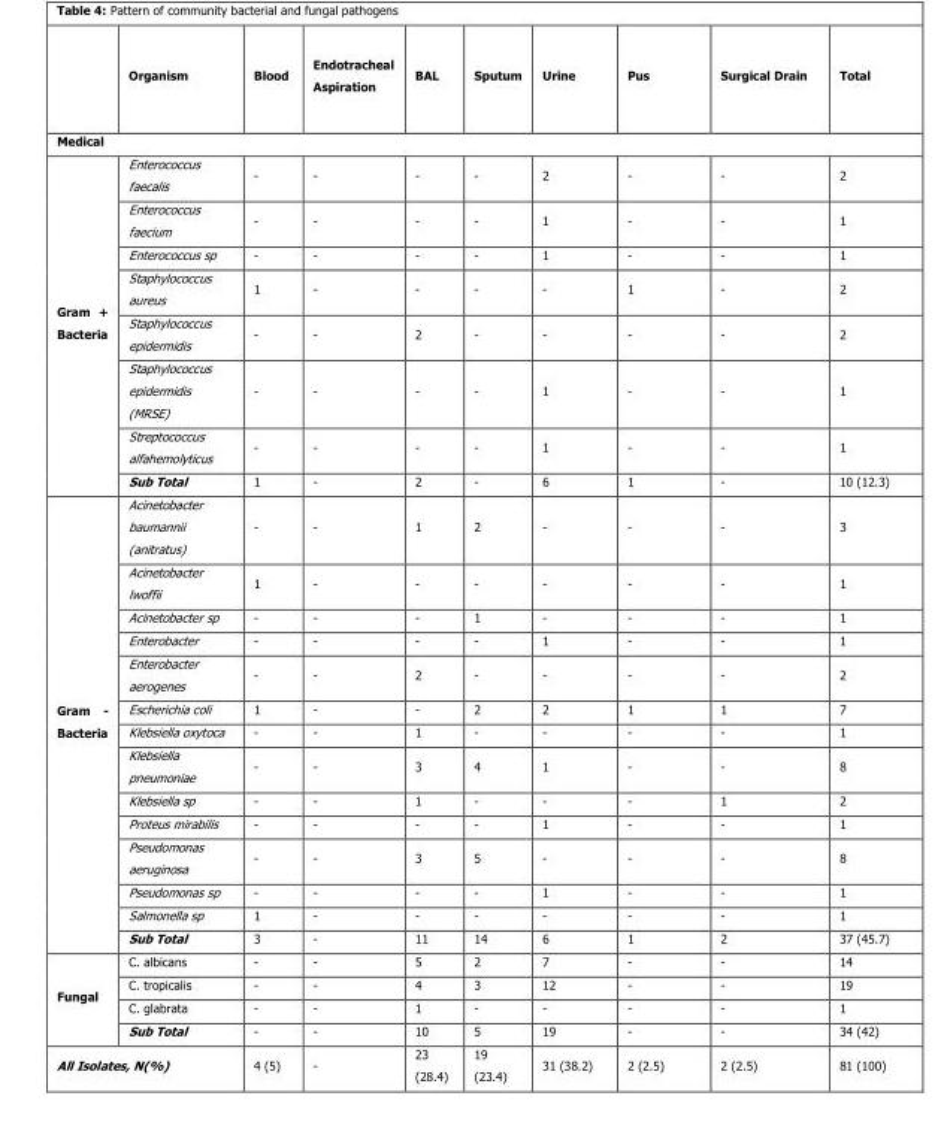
<table><thead><tr><td></td><td>Organism</td><td>Blood</td><td>Endotracheal Aspiration</td><td>BAL</td><td>Sputum</td><td>Urine</td><td>Pus</td><td>Surgical Drain</td><td>Total</td></tr></thead><tbody><tr><td colspan="10">Medical</td></tr><tr><td rowspan="8">Gram + Bacteria</td><td>Enterococcus faecalis</td><td>-</td><td>-</td><td>-</td><td>-</td><td>2</td><td>-</td><td>-</td><td>2</td></tr><tr><td>Enterococcus faecium</td><td>-</td><td>-</td><td>-</td><td>-</td><td>1</td><td>-</td><td>-</td><td>1</td></tr><tr><td>Enterococcus sp</td><td>-</td><td>-</td><td>-</td><td>-</td><td>1</td><td>-</td><td>-</td><td>1</td></tr><tr><td>Staphylococcus aureus</td><td>1</td><td>-</td><td>-</td><td>-</td><td>-</td><td>1</td><td>-</td><td>2</td></tr><tr><td>Staphylococcus epidermidis</td><td>-</td><td>-</td><td>2</td><td>-</td><td>-</td><td>-</td><td>-</td><td>2</td></tr><tr><td>Staphylococcus epidermidis (MRSE)</td><td>-</td><td>-</td><td>-</td><td>-</td><td>1</td><td>-</td><td>-</td><td>1</td></tr><tr><td>Streptococcus alfahemolyticus</td><td>-</td><td>-</td><td>-</td><td>-</td><td>1</td><td>-</td><td>-</td><td>1</td></tr><tr><td>Sub Total</td><td>1</td><td>-</td><td>2</td><td>-</td><td>6</td><td>1</td><td>-</td><td>10 (12.3)</td></tr><tr><td rowspan="14">Gram - Bacteria</td><td>Acinetobacter baumannii (anitratus)</td><td>-</td><td>-</td><td>1</td><td>2</td><td>-</td><td>-</td><td>-</td><td>3</td></tr><tr><td>Acinetobacter lwoffii</td><td>1</td><td>-</td><td>-</td><td>-</td><td>-</td><td>-</td><td>-</td><td>1</td></tr><tr><td>Acinetobacter sp</td><td>-</td><td>-</td><td>-</td><td>1</td><td>-</td><td>-</td><td>-</td><td>1</td></tr><tr><td>Enterobacter</td><td>-</td><td>-</td><td>-</td><td>-</td><td>1</td><td>-</td><td>-</td><td>1</td></tr><tr><td>Enterobacter aerogenes</td><td>-</td><td>-</td><td>2</td><td>-</td><td>-</td><td>-</td><td>-</td><td>2</td></tr><tr><td>Escherichia coli</td><td>1</td><td>-</td><td>-</td><td>2</td><td>2</td><td>1</td><td>1</td><td>7</td></tr><tr><td>Klebsiella oxytoca</td><td>-</td><td>-</td><td>1</td><td>-</td><td>-</td><td>-</td><td>-</td><td>1</td></tr><tr><td>Klebsiella pneumoniae</td><td>-</td><td>-</td><td>3</td><td>4</td><td>1</td><td>-</td><td>-</td><td>8</td></tr><tr><td>Klebsiella sp</td><td>-</td><td>-</td><td>1</td><td>-</td><td>-</td><td>-</td><td>1</td><td>2</td></tr><tr><td>Proteus mirabilis</td><td>-</td><td>-</td><td>-</td><td>-</td><td>1</td><td>-</td><td>-</td><td>1</td></tr><tr><td>Pseudomonas aeruginosa</td><td>-</td><td>-</td><td>3</td><td>5</td><td>-</td><td>-</td><td>-</td><td>8</td></tr><tr><td>Pseudomonas sp</td><td>-</td><td>-</td><td>-</td><td>-</td><td>1</td><td>-</td><td>-</td><td>1</td></tr><tr><td>Salmonella sp</td><td>1</td><td>-</td><td>-</td><td>-</td><td>-</td><td>-</td><td>-</td><td>1</td></tr><tr><td>Sub Total</td><td>3</td><td>-</td><td>11</td><td>14</td><td>6</td><td>1</td><td>2</td><td>37 (45.7)</td></tr><tr><td rowspan="4">Fungal</td><td>C. albicans</td><td>-</td><td>-</td><td>5</td><td>2</td><td>7</td><td>-</td><td>-</td><td>14</td></tr><tr><td>C. tropicalis</td><td>-</td><td>-</td><td>4</td><td>3</td><td>12</td><td>-</td><td>-</td><td>19</td></tr><tr><td>C. glabrata</td><td>-</td><td>-</td><td>1</td><td>-</td><td>-</td><td>-</td><td>-</td><td>1</td></tr><tr><td>Sub Total</td><td>-</td><td>-</td><td>10</td><td>5</td><td>19</td><td>-</td><td>-</td><td>34 (42)</td></tr><tr><td colspan="2">All Isolates, N(%)</td><td>4 (5)</td><td>-</td><td>23 (28.4)</td><td>19 (23.4)</td><td>31 (38.2)</td><td>2 (2.5)</td><td>2 (2.5)</td><td>81 (100)</td></tr></tbody></table>